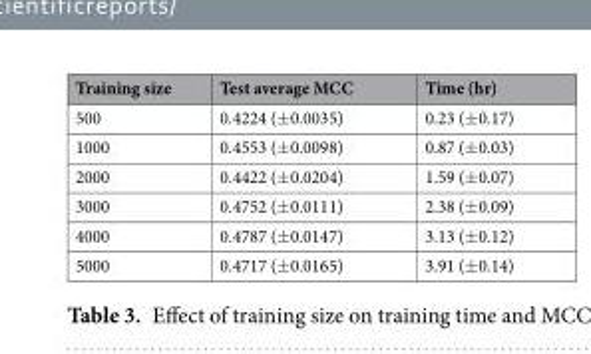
<table><thead><tr><td>Training size</td><td>Test average MCC</td><td>Time (hr)</td></tr></thead><tbody><tr><td>500</td><td>0.4224 (±0.0035)</td><td>0.23 (±0.17)</td></tr><tr><td>1000</td><td>0.4553 (±0.0098)</td><td>0.87 (±0.03)</td></tr><tr><td>2000</td><td>0.4422 (±0.0204)</td><td>1.59 (±0.07)</td></tr><tr><td>3000</td><td>0.4752 (±0.0111)</td><td>2.38 (±0.09)</td></tr><tr><td>4000</td><td>0.4787 (±0.0147)</td><td>3.13 (±0.12)</td></tr><tr><td>5000</td><td>0.4717 (±0.0165)</td><td>3.91 (±0.14)</td></tr></tbody></table>